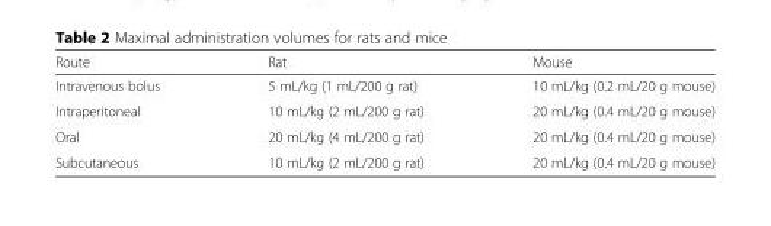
<table><thead><tr><td>Route</td><td>Rat</td><td>Mouse</td></tr></thead><tbody><tr><td>Intravenous bolus</td><td>5 mL/kg (1 mL/200 g rat)</td><td>10 mL/kg (0.2 mL/20 g mouse)</td></tr><tr><td>Intraperitoneal</td><td>10 mL/kg (2 mL/200 g rat)</td><td>20 mL/kg (0.4 mL/20 g mouse)</td></tr><tr><td>Oral</td><td>20 mL/kg (4 mL/200 g rat)</td><td>20 mL/kg (0.4 mL/20 g mouse)</td></tr><tr><td>Subcutaneous</td><td>10 mL/kg (2 mL/200 g rat)</td><td>20 mL/kg (0.4 mL/20 g mouse)</td></tr></tbody></table>